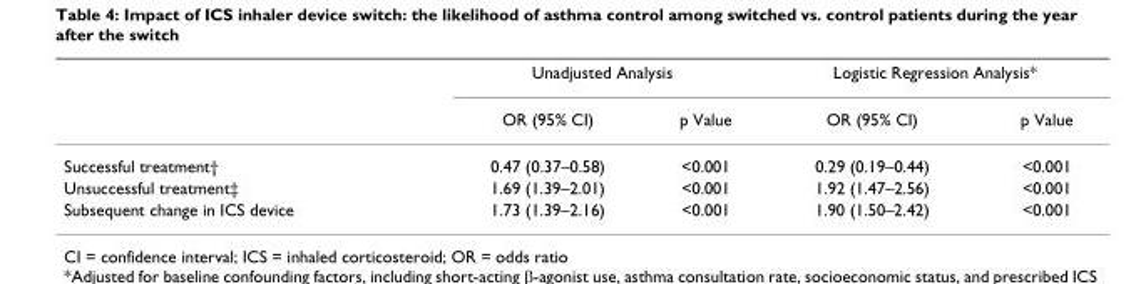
<table><thead><tr><td rowspan="2"></td><td colspan="2">Unadjusted Analysis</td><td colspan="2">Logistic Regression Analysis*</td></tr><tr><td>OR (95% CI)</td><td>p Value</td><td>OR (95% CI)</td><td>p Value</td></tr></thead><tbody><tr><td>Successful treatment†</td><td>0.47 (0.37–0.58)</td><td>&lt;0.001</td><td>0.29 (0.19–0.44)</td><td>&lt;0.001</td></tr><tr><td>Unsuccessful treatment‡</td><td>1.69 (1.39–2.01)</td><td>&lt;0.001</td><td>1.92 (1.47–2.56)</td><td>&lt;0.001</td></tr><tr><td>Subsequent change in ICS device</td><td>1.73 (1.39–2.16)</td><td>&lt;0.001</td><td>1.90 (1.50–2.42)</td><td>&lt;0.001</td></tr></tbody></table>